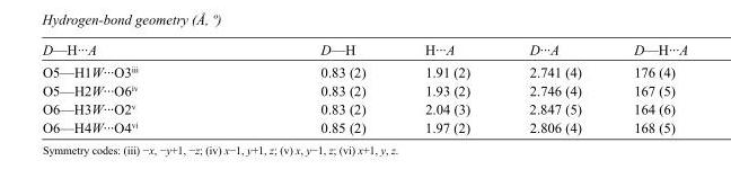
<table><tbody><tr><td>D—H···A</td><td>D—H</td><td>H···A</td><td>D···A</td><td>D—H···A</td></tr><tr><td>O5—H1W···O3<sup>iii</sup></td><td>0.83 (2)</td><td>1.91 (2)</td><td>2.741 (4)</td><td>176 (4)</td></tr><tr><td>O5—H2W···O6<sup>iv</sup></td><td>0.83 (2)</td><td>1.93 (2)</td><td>2.746 (4)</td><td>167 (5)</td></tr><tr><td>O6—H3W···O2<sup>v</sup></td><td>0.83 (2)</td><td>2.04 (3)</td><td>2.847 (5)</td><td>164 (6)</td></tr><tr><td>O6—H4W···O4<sup>vi</sup></td><td>0.85 (2)</td><td>1.97 (2)</td><td>2.806 (4)</td><td>168 (5)</td></tr></tbody></table>